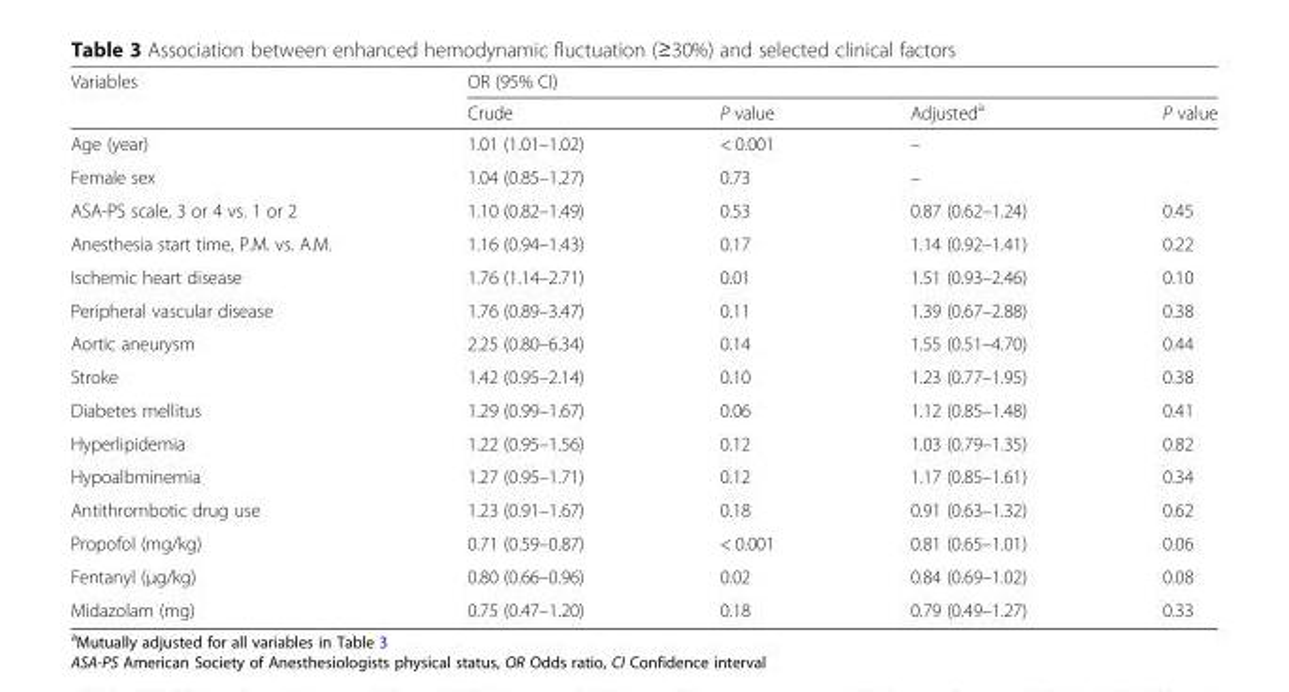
<table><thead><tr><td rowspan="2">Variables</td><td colspan="4">OR (95% CI)</td></tr><tr><td>Crude</td><td>P value</td><td>Adjusted<sup>a</sup></td><td>P value</td></tr></thead><tbody><tr><td>Age (year)</td><td>1.01 (1.01–1.02)</td><td>&lt; 0.001</td><td>–</td><td></td></tr><tr><td>Female sex</td><td>1.04 (0.85–1.27)</td><td>0.73</td><td>–</td><td></td></tr><tr><td>ASA-PS scale, 3 or 4 vs. 1 or 2</td><td>1.10 (0.82–1.49)</td><td>0.53</td><td>0.87 (0.62–1.24)</td><td>0.45</td></tr><tr><td>Anesthesia start time, P.M. vs. A.M.</td><td>1.16 (0.94–1.43)</td><td>0.17</td><td>1.14 (0.92–1.41)</td><td>0.22</td></tr><tr><td>Ischemic heart disease</td><td>1.76 (1.14–2.71)</td><td>0.01</td><td>1.51 (0.93–2.46)</td><td>0.10</td></tr><tr><td>Peripheral vascular disease</td><td>1.76 (0.89–3.47)</td><td>0.11</td><td>1.39 (0.67–2.88)</td><td>0.38</td></tr><tr><td>Aortic aneurysm</td><td>2.25 (0.80–6.34)</td><td>0.14</td><td>1.55 (0.51–4.70)</td><td>0.44</td></tr><tr><td>Stroke</td><td>1.42 (0.95–2.14)</td><td>0.10</td><td>1.23 (0.77–1.95)</td><td>0.38</td></tr><tr><td>Diabetes mellitus</td><td>1.29 (0.99–1.67)</td><td>0.06</td><td>1.12 (0.85–1.48)</td><td>0.41</td></tr><tr><td>Hyperlipidemia</td><td>1.22 (0.95–1.56)</td><td>0.12</td><td>1.03 (0.79–1.35)</td><td>0.82</td></tr><tr><td>Hypoalbminemia</td><td>1.27 (0.95–1.71)</td><td>0.12</td><td>1.17 (0.85–1.61)</td><td>0.34</td></tr><tr><td>Antithrombotic drug use</td><td>1.23 (0.91–1.67)</td><td>0.18</td><td>0.91 (0.63–1.32)</td><td>0.62</td></tr><tr><td>Propofol (mg/kg)</td><td>0.71 (0.59–0.87)</td><td>&lt; 0.001</td><td>0.81 (0.65–1.01)</td><td>0.06</td></tr><tr><td>Fentanyl (μg/kg)</td><td>0.80 (0.66–0.96)</td><td>0.02</td><td>0.84 (0.69–1.02)</td><td>0.08</td></tr><tr><td>Midazolam (mg)</td><td>0.75 (0.47–1.20)</td><td>0.18</td><td>0.79 (0.49–1.27)</td><td>0.33</td></tr></tbody></table>